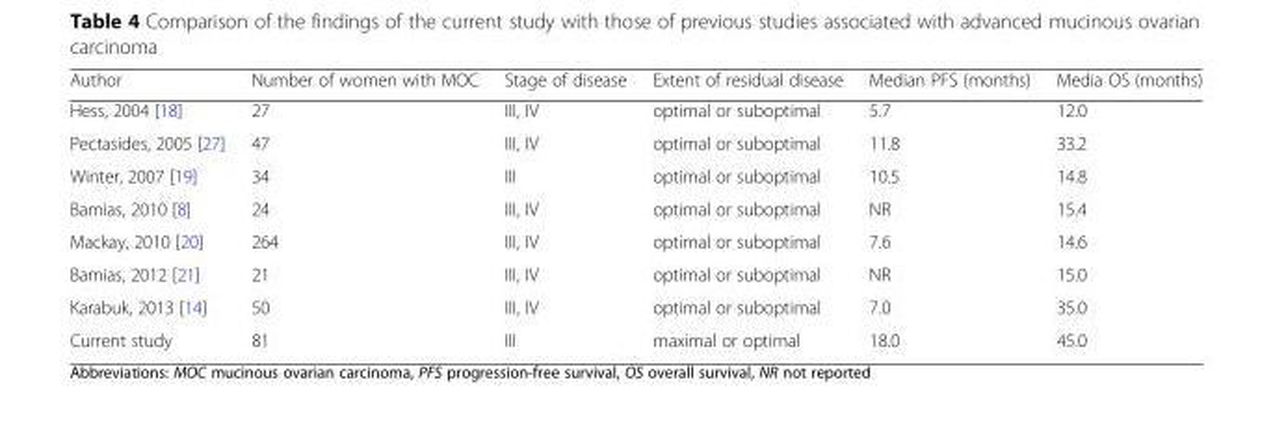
<table><thead><tr><td>Author</td><td>Number of women with MOC</td><td>Stage of disease</td><td>Extent of residual disease</td><td>Median PFS (months)</td><td>Media OS (months)</td></tr></thead><tbody><tr><td>Hess, 2004 [18]</td><td>27</td><td>III, IV</td><td>optimal or suboptimal</td><td>5.7</td><td>12.0</td></tr><tr><td>Pectasides, 2005 [27]</td><td>47</td><td>III, IV</td><td>optimal or suboptimal</td><td>11.8</td><td>33.2</td></tr><tr><td>Winter, 2007 [19]</td><td>34</td><td>III</td><td>optimal or suboptimal</td><td>10.5</td><td>14.8</td></tr><tr><td>Bamias, 2010 [8]</td><td>24</td><td>III, IV</td><td>optimal or suboptimal</td><td>NR</td><td>15.4</td></tr><tr><td>Mackay, 2010 [20]</td><td>264</td><td>III, IV</td><td>optimal or suboptimal</td><td>7.6</td><td>14.6</td></tr><tr><td>Bamias, 2012 [21]</td><td>21</td><td>III, IV</td><td>optimal or suboptimal</td><td>NR</td><td>15.0</td></tr><tr><td>Karabuk, 2013 [14]</td><td>50</td><td>III, IV</td><td>optimal or suboptimal</td><td>7.0</td><td>35.0</td></tr><tr><td>Current study</td><td>81</td><td>III</td><td>maximal or optimal</td><td>18.0</td><td>45.0</td></tr></tbody></table>